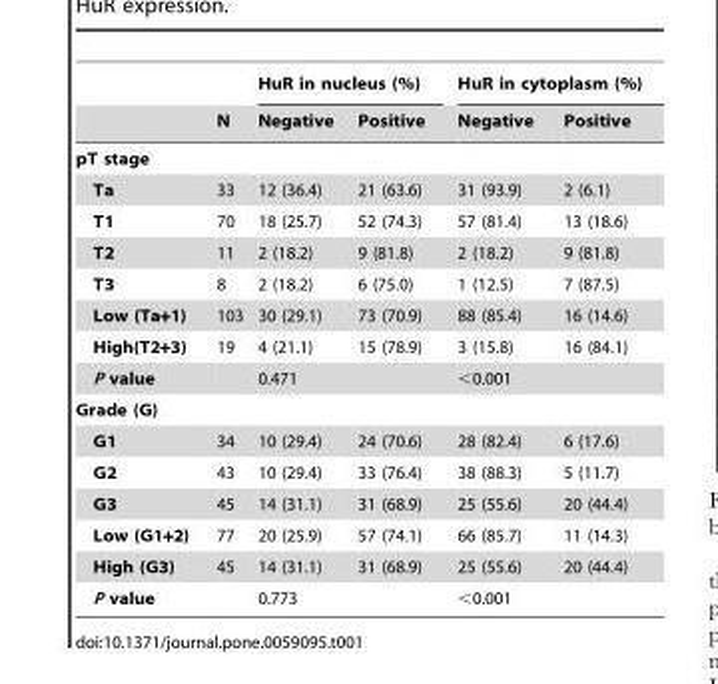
<table><thead><tr><td rowspan="2"></td><td rowspan="2">N</td><td colspan="2">HuR in nucleus (%)</td><td colspan="2">HuR in cytoplasm (%)</td></tr><tr><td>Negative</td><td>Positive</td><td>Negative</td><td>Positive</td></tr></thead><tbody><tr><td colspan="6">pT stage</td></tr><tr><td>Ta</td><td>33</td><td>12 (36.4)</td><td>21 (63.6)</td><td>31 (93.9)</td><td>2 (6.1)</td></tr><tr><td>T1</td><td>70</td><td>18 (25.7)</td><td>52 (74.3)</td><td>57 (81.4)</td><td>13 (18.6)</td></tr><tr><td>T2</td><td>11</td><td>2 (18.2)</td><td>9 (81.8)</td><td>2 (18.2)</td><td>9 (81.8)</td></tr><tr><td>T3</td><td>8</td><td>2 (18.2)</td><td>6 (75.0)</td><td>1 (12.5)</td><td>7 (87.5)</td></tr><tr><td>Low (Ta+1)</td><td>103</td><td>30 (29.1)</td><td>73 (70.9)</td><td>88 (85.4)</td><td>16 (14.6)</td></tr><tr><td>High(T2+3)</td><td>19</td><td>4 (21.1)</td><td>15 (78.9)</td><td>3 (15.8)</td><td>16 (84.1)</td></tr><tr><td>P value</td><td></td><td colspan="2">0.471</td><td colspan="2">&lt;0.001</td></tr><tr><td colspan="6">Grade (G)</td></tr><tr><td>G1</td><td>34</td><td>10 (29.4)</td><td>24 (70.6)</td><td>28 (82.4)</td><td>6 (17.6)</td></tr><tr><td>G2</td><td>43</td><td>10 (29.4)</td><td>33 (76.4)</td><td>38 (88.3)</td><td>5 (11.7)</td></tr><tr><td>G3</td><td>45</td><td>14 (31.1)</td><td>31 (68.9)</td><td>25 (55.6)</td><td>20 (44.4)</td></tr><tr><td>Low (G1+2)</td><td>77</td><td>20 (25.9)</td><td>57 (74.1)</td><td>66 (85.7)</td><td>11 (14.3)</td></tr><tr><td>High (G3)</td><td>45</td><td>14 (31.1)</td><td>31 (68.9)</td><td>25 (55.6)</td><td>20 (44.4)</td></tr><tr><td>P value</td><td></td><td colspan="2">0.773</td><td colspan="2">&lt;0.001</td></tr></tbody></table>